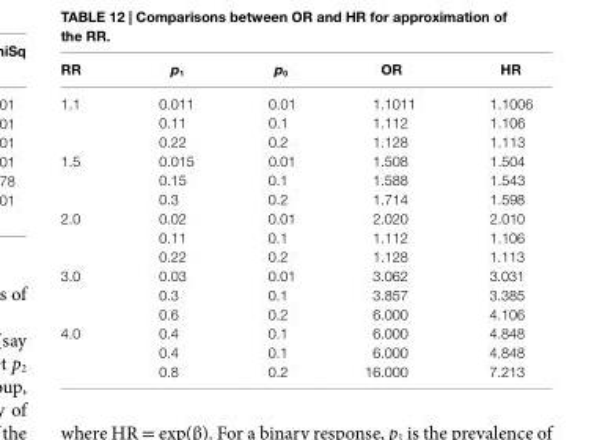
<table><thead><tr><td>RR</td><td>p<sub>1</sub></td><td>p<sub>0</sub></td><td>OR</td><td>HR</td></tr></thead><tbody><tr><td rowspan="3">1.1</td><td>0.011</td><td>0.01</td><td>1.1011</td><td>1.1006</td></tr><tr><td>0.11</td><td>0.1</td><td>1.112</td><td>1.106</td></tr><tr><td>0.22</td><td>0.2</td><td>1.128</td><td>1.113</td></tr><tr><td rowspan="3">1.5</td><td>0.015</td><td>0.01</td><td>1.508</td><td>1.504</td></tr><tr><td>0.15</td><td>0.1</td><td>1.588</td><td>1.543</td></tr><tr><td>0.3</td><td>0.2</td><td>1.714</td><td>1.598</td></tr><tr><td rowspan="3">2.0</td><td>0.02</td><td>0.01</td><td>2.020</td><td>2.010</td></tr><tr><td>0.11</td><td>0.1</td><td>1.112</td><td>1.106</td></tr><tr><td>0.22</td><td>0.2</td><td>1.128</td><td>1.113</td></tr><tr><td rowspan="3">3.0</td><td>0.03</td><td>0.01</td><td>3.062</td><td>3.031</td></tr><tr><td>0.3</td><td>0.1</td><td>3.857</td><td>3.385</td></tr><tr><td>0.6</td><td>0.2</td><td>6.000</td><td>4.106</td></tr><tr><td rowspan="3">4.0</td><td>0.4</td><td>0.1</td><td>6.000</td><td>4.848</td></tr><tr><td>0.4</td><td>0.1</td><td>6.000</td><td>4.848</td></tr><tr><td>0.8</td><td>0.2</td><td>16.000</td><td>7.213</td></tr></tbody></table>